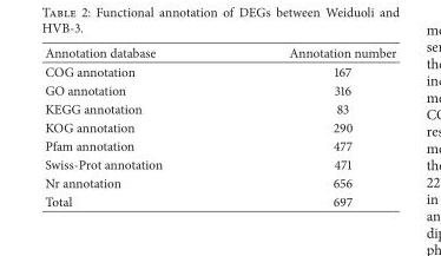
<table><thead><tr><td>Annotation database</td><td>Annotation number</td></tr></thead><tbody><tr><td>COG annotation</td><td>167</td></tr><tr><td>GO annotation</td><td>316</td></tr><tr><td>KEGG annotation</td><td>83</td></tr><tr><td>KOG annotation</td><td>290</td></tr><tr><td>Pfam annotation</td><td>477</td></tr><tr><td>Swiss-Prot annotation</td><td>471</td></tr><tr><td>Nr annotation</td><td>656</td></tr><tr><td>Total</td><td>697</td></tr></tbody></table>